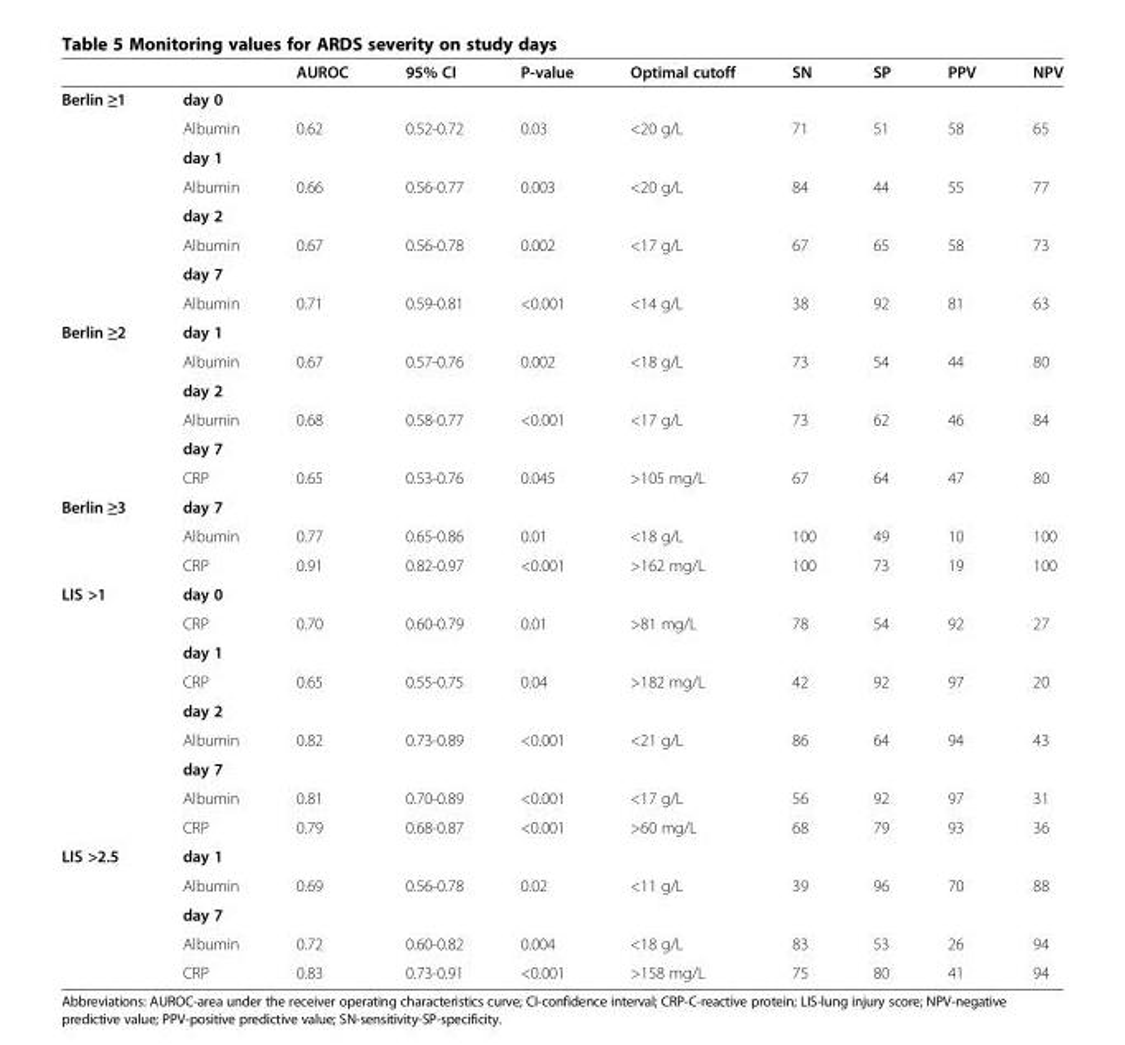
<table><thead><tr><td></td><td></td><td>AUROC</td><td>95% CI</td><td>P-value</td><td>Optimal cutoff</td><td>SN</td><td>SP</td><td>PPV</td><td>NPV</td></tr></thead><tbody><tr><td rowspan="8">Berlin ≥1</td><td>day 0</td><td></td><td></td><td></td><td></td><td></td><td></td><td></td><td></td></tr><tr><td>Albumin</td><td>0.62</td><td>0.52-0.72</td><td>0.03</td><td>&lt;20 g/L</td><td>71</td><td>51</td><td>58</td><td>65</td></tr><tr><td>day 1</td><td></td><td></td><td></td><td></td><td></td><td></td><td></td><td></td></tr><tr><td>Albumin</td><td>0.66</td><td>0.56-0.77</td><td>0.003</td><td>&lt;20 g/L</td><td>84</td><td>44</td><td>55</td><td>77</td></tr><tr><td>day 2</td><td></td><td></td><td></td><td></td><td></td><td></td><td></td><td></td></tr><tr><td>Albumin</td><td>0.67</td><td>0.56-0.78</td><td>0.002</td><td>&lt;17 g/L</td><td>67</td><td>65</td><td>58</td><td>73</td></tr><tr><td>day 7</td><td></td><td></td><td></td><td></td><td></td><td></td><td></td><td></td></tr><tr><td>Albumin</td><td>0.71</td><td>0.59-0.81</td><td>&lt;0.001</td><td>&lt;14 g/L</td><td>38</td><td>92</td><td>81</td><td>63</td></tr><tr><td rowspan="6">Berlin ≥2</td><td>day 1</td><td></td><td></td><td></td><td></td><td></td><td></td><td></td><td></td></tr><tr><td>Albumin</td><td>0.67</td><td>0.57-0.76</td><td>0.002</td><td>&lt;18 g/L</td><td>73</td><td>54</td><td>44</td><td>80</td></tr><tr><td>day 2</td><td></td><td></td><td></td><td></td><td></td><td></td><td></td><td></td></tr><tr><td>Albumin</td><td>0.68</td><td>0.58-0.77</td><td>&lt;0.001</td><td>&lt;17 g/L</td><td>73</td><td>62</td><td>46</td><td>84</td></tr><tr><td>day 7</td><td></td><td></td><td></td><td></td><td></td><td></td><td></td><td></td></tr><tr><td>CRP</td><td>0.65</td><td>0.53-0.76</td><td>0.045</td><td>&gt;105 mg/L</td><td>67</td><td>64</td><td>47</td><td>80</td></tr><tr><td rowspan="3">Berlin ≥3</td><td>day 7</td><td></td><td></td><td></td><td></td><td></td><td></td><td></td><td></td></tr><tr><td>Albumin</td><td>0.77</td><td>0.65-0.86</td><td>0.01</td><td>&lt;18 g/L</td><td>100</td><td>49</td><td>10</td><td>100</td></tr><tr><td>CRP</td><td>0.91</td><td>0.82-0.97</td><td>&lt;0.001</td><td>&gt;162 mg/L</td><td>100</td><td>73</td><td>19</td><td>100</td></tr><tr><td rowspan="9">LIS &gt;1</td><td>day 0</td><td></td><td></td><td></td><td></td><td></td><td></td><td></td><td></td></tr><tr><td>CRP</td><td>0.70</td><td>0.60-0.79</td><td>0.01</td><td>&gt;81 mg/L</td><td>78</td><td>54</td><td>92</td><td>27</td></tr><tr><td>day 1</td><td></td><td></td><td></td><td></td><td></td><td></td><td></td><td></td></tr><tr><td>CRP</td><td>0.65</td><td>0.55-0.75</td><td>0.04</td><td>&gt;182 mg/L</td><td>42</td><td>92</td><td>97</td><td>20</td></tr><tr><td>day 2</td><td></td><td></td><td></td><td></td><td></td><td></td><td></td><td></td></tr><tr><td>Albumin</td><td>0.82</td><td>0.73-0.89</td><td>&lt;0.001</td><td>&lt;21 g/L</td><td>86</td><td>64</td><td>94</td><td>43</td></tr><tr><td>day 7</td><td></td><td></td><td></td><td></td><td></td><td></td><td></td><td></td></tr><tr><td>Albumin</td><td>0.81</td><td>0.70-0.89</td><td>&lt;0.001</td><td>&lt;17 g/L</td><td>56</td><td>92</td><td>97</td><td>31</td></tr><tr><td>CRP</td><td>0.79</td><td>0.68-0.87</td><td>&lt;0.001</td><td>&gt;60 mg/L</td><td>68</td><td>79</td><td>93</td><td>36</td></tr><tr><td rowspan="5">LIS &gt;2.5</td><td>day 1</td><td></td><td></td><td></td><td></td><td></td><td></td><td></td><td></td></tr><tr><td>Albumin</td><td>0.69</td><td>0.56-0.78</td><td>0.02</td><td>&lt;11 g/L</td><td>39</td><td>96</td><td>70</td><td>88</td></tr><tr><td>day 7</td><td></td><td></td><td></td><td></td><td></td><td></td><td></td><td></td></tr><tr><td>Albumin</td><td>0.72</td><td>0.60-0.82</td><td>0.004</td><td>&lt;18 g/L</td><td>83</td><td>53</td><td>26</td><td>94</td></tr><tr><td>CRP</td><td>0.83</td><td>0.73-0.91</td><td>&lt;0.001</td><td>&gt;158 mg/L</td><td>75</td><td>80</td><td>41</td><td>94</td></tr></tbody></table>